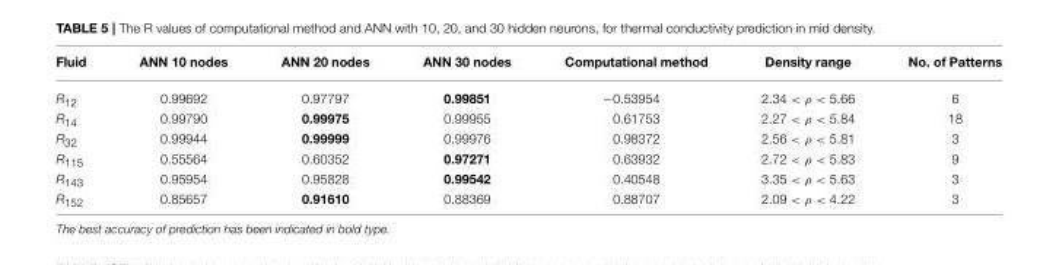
<table><thead><tr><td>Fluid</td><td>ANN 10 nodes</td><td>ANN 20 nodes</td><td>ANN 30 nodes</td><td>Computational method</td><td>Density range</td><td>No. of Patterns</td></tr></thead><tbody><tr><td>R<sub>12</sub></td><td>0.99692</td><td>0.97797</td><td>0.99851</td><td>−0.53954</td><td>2.34 &lt; ρ &lt; 5.66</td><td>6</td></tr><tr><td>R<sub>14</sub></td><td>0.99790</td><td>0.99975</td><td>0.99955</td><td>0.61753</td><td>2.27 &lt; ρ &lt; 5.84</td><td>18</td></tr><tr><td>R<sub>32</sub></td><td>0.99944</td><td>0.99999</td><td>0.99976</td><td>0.98372</td><td>2.56 &lt; ρ &lt; 5.81</td><td>3</td></tr><tr><td>R<sub>115</sub></td><td>0.55564</td><td>0.60352</td><td>0.97271</td><td>0.63932</td><td>2.72 &lt; ρ &lt; 5.83</td><td>9</td></tr><tr><td>R<sub>143</sub></td><td>0.95954</td><td>0.95828</td><td>0.99542</td><td>0.40548</td><td>3.35 &lt; ρ &lt; 5.63</td><td>3</td></tr><tr><td>R<sub>152</sub></td><td>0.85657</td><td>0.91610</td><td>0.88369</td><td>0.88707</td><td>2.09 &lt; ρ &lt; 4.22</td><td>3</td></tr></tbody></table>